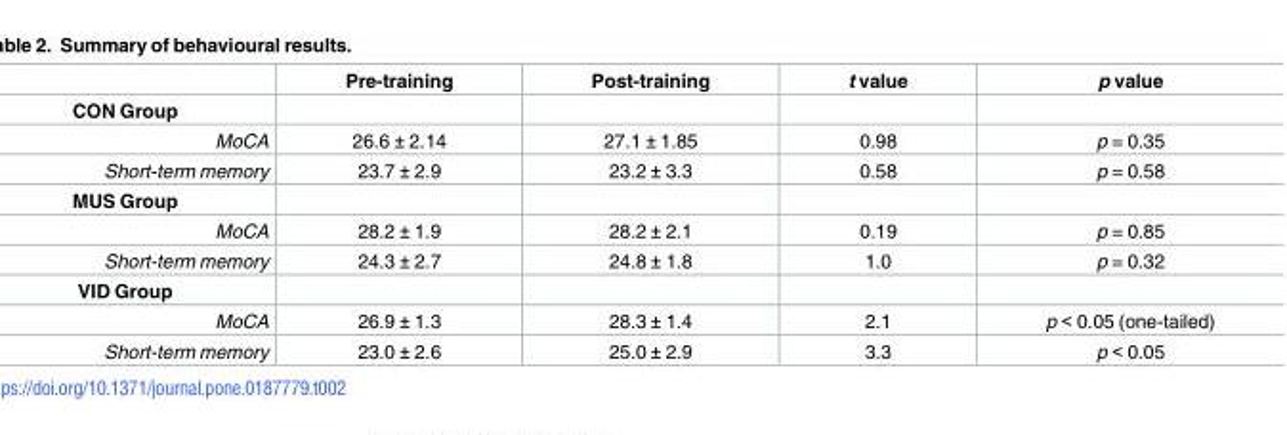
<table><thead><tr><td></td><td>Pre-training</td><td>Post-training</td><td>t value</td><td>p value</td></tr></thead><tbody><tr><td colspan="5">CON Group</td></tr><tr><td>MoCA</td><td>26.6 ± 2.14</td><td>27.1 ± 1.85</td><td>0.98</td><td>p = 0.35</td></tr><tr><td>Short-term memory</td><td>23.7 ± 2.9</td><td>23.2 ± 3.3</td><td>0.58</td><td>p = 0.58</td></tr><tr><td colspan="5">MUS Group</td></tr><tr><td>MoCA</td><td>28.2 ± 1.9</td><td>28.2 ± 2.1</td><td>0.19</td><td>p = 0.85</td></tr><tr><td>Short-term memory</td><td>24.3 ± 2.7</td><td>24.8 ± 1.8</td><td>1.0</td><td>p = 0.32</td></tr><tr><td colspan="5">VID Group</td></tr><tr><td>MoCA</td><td>26.9 ± 1.3</td><td>28.3 ± 1.4</td><td>2.1</td><td>p &lt; 0.05 (one-tailed)</td></tr><tr><td>Short-term memory</td><td>23.0 ± 2.6</td><td>25.0 ± 2.9</td><td>3.3</td><td>p &lt; 0.05</td></tr></tbody></table>